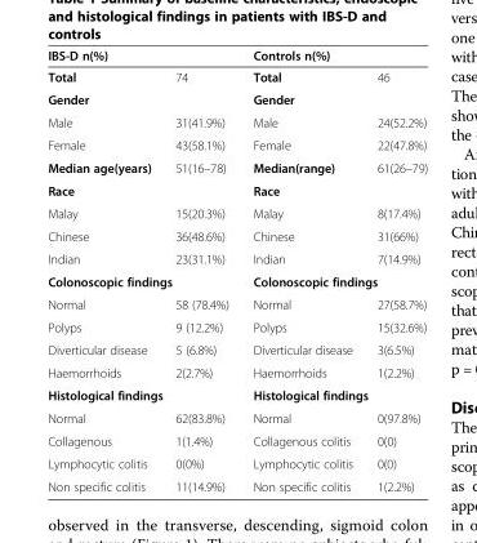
<table><thead><tr><td colspan="2">IBS-D n(%)</td><td colspan="2">Controls n(%)</td></tr><tr><td>Total</td><td>74</td><td>Total</td><td>46</td></tr></thead><tbody><tr><td colspan="2">Gender</td><td colspan="2">Gender</td></tr><tr><td>Male</td><td>31(41.9%)</td><td>Male</td><td>24(52.2%)</td></tr><tr><td>Female</td><td>43(58.1%)</td><td>Female</td><td>22(47.8%)</td></tr><tr><td>Median age(years)</td><td>51(16–78)</td><td>Median(range)</td><td>61(26–79)</td></tr><tr><td colspan="2">Race</td><td colspan="2">Race</td></tr><tr><td>Malay</td><td>15(20.3%)</td><td>Malay</td><td>8(17.4%)</td></tr><tr><td>Chinese</td><td>36(48.6%)</td><td>Chinese</td><td>31(66%)</td></tr><tr><td>Indian</td><td>23(31.1%)</td><td>Indian</td><td>7(14.9%)</td></tr><tr><td colspan="2">Colonoscopic findings</td><td colspan="2">Colonoscopic findings</td></tr><tr><td>Normal</td><td>58 (78.4%)</td><td>Normal</td><td>27(58.7%)</td></tr><tr><td>Polyps</td><td>9 (12.2%)</td><td>Polyps</td><td>15(32.6%)</td></tr><tr><td>Diverticular disease</td><td>5 (6.8%)</td><td>Diverticular disease</td><td>3(6.5%)</td></tr><tr><td>Haemorrhoids</td><td>2(2.7%)</td><td>Haemorrhoids</td><td>1(2.2%)</td></tr><tr><td colspan="2">Histological findings</td><td colspan="2">Histological findings</td></tr><tr><td>Normal</td><td>62(83.8%)</td><td>Normal</td><td>0(97.8%)</td></tr><tr><td>Collagenous</td><td>1(1.4%)</td><td>Collagenous colitis</td><td>0(0)</td></tr><tr><td>Lymphocytic colitis</td><td>0(0%)</td><td>Lymphocytic colitis</td><td>0(0)</td></tr><tr><td>Non specific colitis</td><td>11(14.9%)</td><td>Non specific colitis</td><td>1(2.2%)</td></tr></tbody></table>